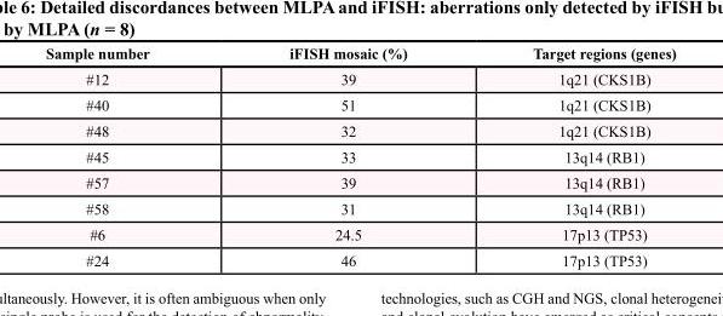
<table><thead><tr><td>Sample number</td><td>iFISH mosaic (%)</td><td>Target regions (genes)</td></tr></thead><tbody><tr><td>#12</td><td>39</td><td>1q21 (CKS1B)</td></tr><tr><td>#40</td><td>51</td><td>1q21 (CKS1B)</td></tr><tr><td>#48</td><td>32</td><td>1q21 (CKS1B)</td></tr><tr><td>#45</td><td>33</td><td>13q14 (RB1)</td></tr><tr><td>#57</td><td>39</td><td>13q14 (RB1)</td></tr><tr><td>#58</td><td>31</td><td>13q14 (RB1)</td></tr><tr><td>#6</td><td>24.5</td><td>17p13 (TP53)</td></tr><tr><td>#24</td><td>46</td><td>17p13 (TP53)</td></tr></tbody></table>